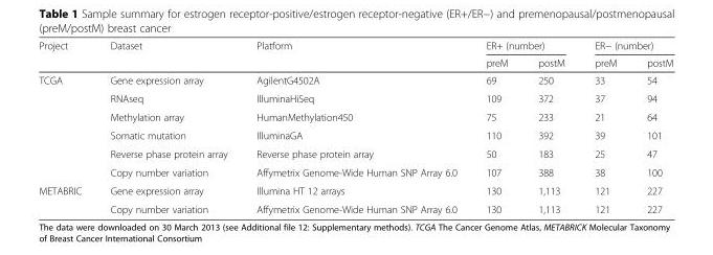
<table><thead><tr><td rowspan="2">Project</td><td rowspan="2">Dataset</td><td rowspan="2">Platform</td><td colspan="2">ER+ (number)</td><td colspan="2">ER− (number)</td></tr><tr><td>preM</td><td>postM</td><td>preM</td><td>postM</td></tr></thead><tbody><tr><td rowspan="6">TCGA</td><td>Gene expression array</td><td>AgilentG4502A</td><td>69</td><td>250</td><td>33</td><td>54</td></tr><tr><td>RNAseq</td><td>IlluminaHiSeq</td><td>109</td><td>372</td><td>37</td><td>94</td></tr><tr><td>Methylation array</td><td>HumanMethylation450</td><td>75</td><td>233</td><td>21</td><td>64</td></tr><tr><td>Somatic mutation</td><td>IlluminaGA</td><td>110</td><td>392</td><td>39</td><td>101</td></tr><tr><td>Reverse phase protein array</td><td>Reverse phase protein array</td><td>50</td><td>183</td><td>25</td><td>47</td></tr><tr><td>Copy number variation</td><td>Affymetrix Genome-Wide Human SNP Array 6.0</td><td>107</td><td>388</td><td>38</td><td>100</td></tr><tr><td rowspan="2">METABRIC</td><td>Gene expression array</td><td>Illumina HT 12 arrays</td><td>130</td><td>1,113</td><td>121</td><td>227</td></tr><tr><td>Copy number variation</td><td>Affymetrix Genome-Wide Human SNP Array 6.0</td><td>130</td><td>1,113</td><td>121</td><td>227</td></tr></tbody></table>